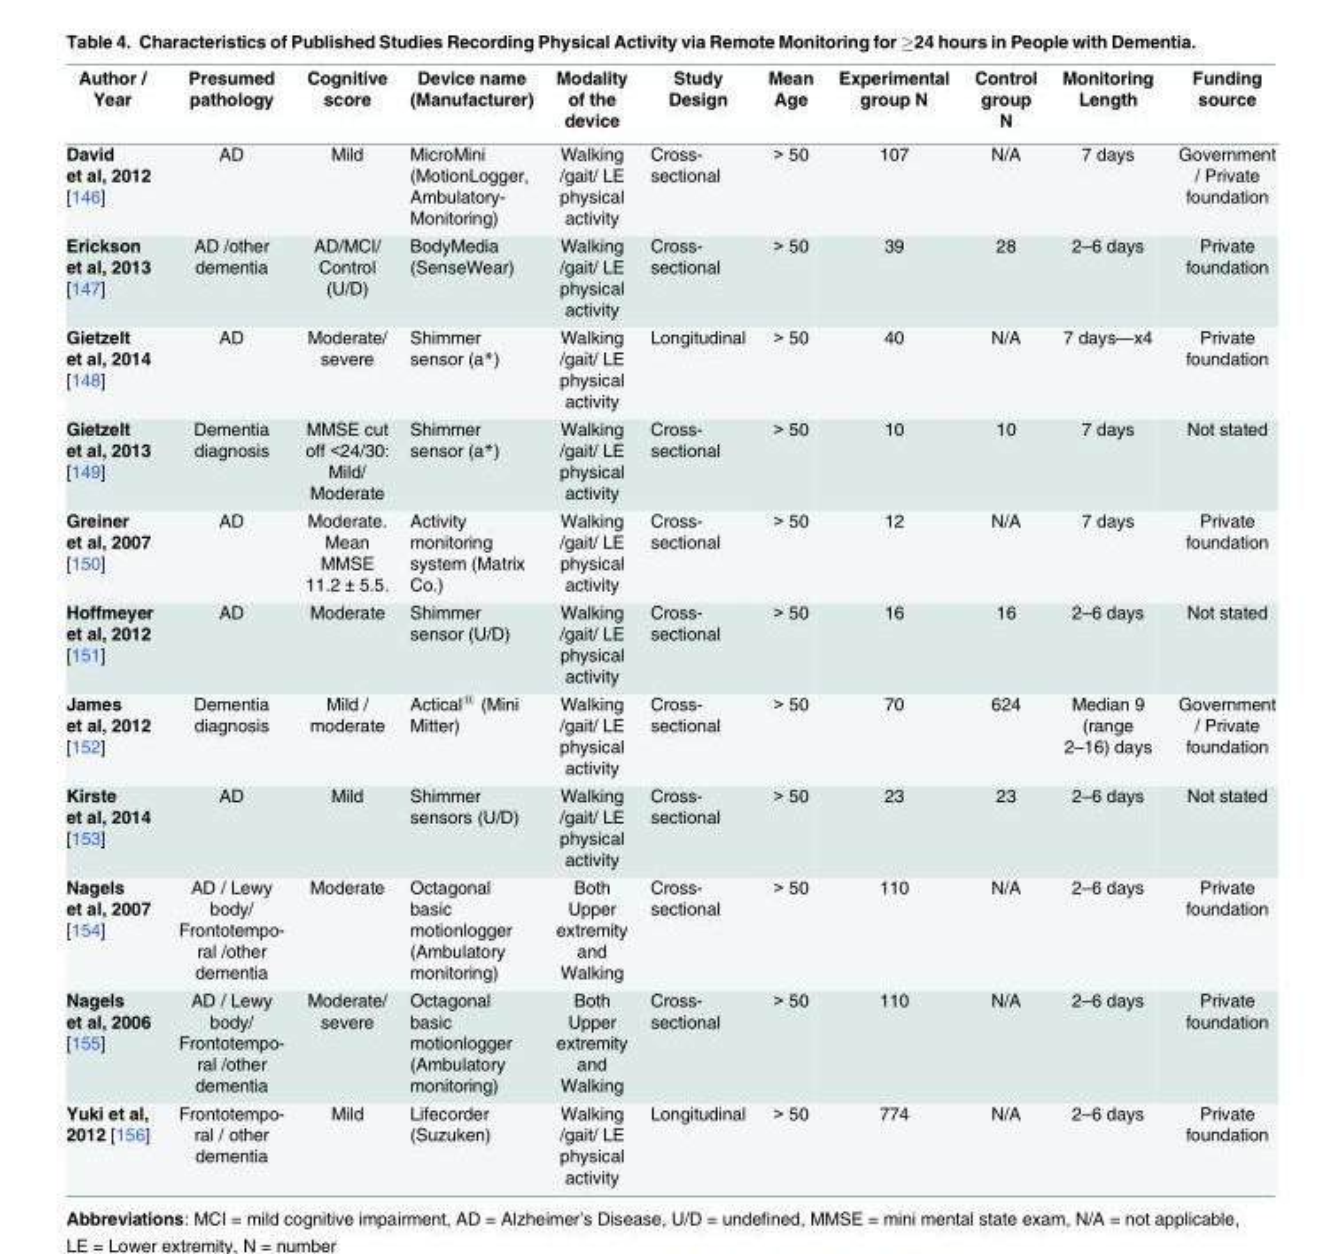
<table><thead><tr><td>Author / Year</td><td>Presumed pathology</td><td>Cognitive score</td><td>Device name (Manufacturer)</td><td>Modality of the device</td><td>Study Design</td><td>Mean Age</td><td>Experimental group N</td><td>Control group N</td><td>Monitoring Length</td><td>Funding source</td></tr></thead><tbody><tr><td>David et al, 2012 [146]</td><td>AD</td><td>Mild</td><td>MicroMini (MotionLogger, Ambulatory- Monitoring)</td><td>Walking /gait/ LE physical activity</td><td>Cross- sectional</td><td>&gt; 50</td><td>107</td><td>N/A</td><td>7 days</td><td>Government / Private foundation</td></tr><tr><td>Erickson et al, 2013 [147]</td><td>AD /other dementia</td><td>AD/MCI/ Control (U/D)</td><td>BodyMedia (SenseWear)</td><td>Walking /gait/ LE physical activity</td><td>Cross- sectional</td><td>&gt; 50</td><td>39</td><td>28</td><td>2–6 days</td><td>Private foundation</td></tr><tr><td>Gietzelt et al, 2014 [148]</td><td>AD</td><td>Moderate/ severe</td><td>Shimmer sensor (a*)</td><td>Walking /gait/ LE physical activity</td><td>Longitudinal</td><td>&gt; 50</td><td>40</td><td>N/A</td><td>7 days—x4</td><td>Private foundation</td></tr><tr><td>Gietzelt et al, 2013 [149]</td><td>Dementia diagnosis</td><td>MMSE cut off &lt;24/30: Mild/ Moderate</td><td>Shimmer sensor (a*)</td><td>Walking /gait/ LE physical activity</td><td>Cross- sectional</td><td>&gt; 50</td><td>10</td><td>10</td><td>7 days</td><td>Not stated</td></tr><tr><td>Greiner et al, 2007 [150]</td><td>AD</td><td>Moderate. Mean MMSE 11.2 ± 5.5.</td><td>Activity monitoring system (Matrix Co.)</td><td>Walking /gait/ LE physical activity</td><td>Cross- sectional</td><td>&gt; 50</td><td>12</td><td>N/A</td><td>7 days</td><td>Private foundation</td></tr><tr><td>Hoffmeyer et al, 2012 [151]</td><td>AD</td><td>Moderate</td><td>Shimmer sensor (U/D)</td><td>Walking /gait/ LE physical activity</td><td>Cross- sectional</td><td>&gt; 50</td><td>16</td><td>16</td><td>2–6 days</td><td>Not stated</td></tr><tr><td>James et al, 2012 [152]</td><td>Dementia diagnosis</td><td>Mild / moderate</td><td>Actical<sup>®</sup> (Mini Mitter)</td><td>Walking /gait/ LE physical activity</td><td>Cross- sectional</td><td>&gt; 50</td><td>70</td><td>624</td><td>Median 9 (range 2–16) days</td><td>Government / Private foundation</td></tr><tr><td>Kirste et al, 2014 [153]</td><td>AD</td><td>Mild</td><td>Shimmer sensors (U/D)</td><td>Walking /gait/ LE physical activity</td><td>Cross- sectional</td><td>&gt; 50</td><td>23</td><td>23</td><td>2–6 days</td><td>Not stated</td></tr><tr><td>Nagels et al, 2007 [154]</td><td>AD / Lewy body/ Frontotempo- ral /other dementia</td><td>Moderate</td><td>Octagonal basic motionlogger (Ambulatory monitoring)</td><td>Both Upper extremity and Walking</td><td>Cross- sectional</td><td>&gt; 50</td><td>110</td><td>N/A</td><td>2–6 days</td><td>Private foundation</td></tr><tr><td>Nagels et al, 2006 [155]</td><td>AD / Lewy body/ Frontotempo- ral /other dementia</td><td>Moderate/ severe</td><td>Octagonal basic motionlogger (Ambulatory monitoring)</td><td>Both Upper extremity and Walking</td><td>Cross- sectional</td><td>&gt; 50</td><td>110</td><td>N/A</td><td>2–6 days</td><td>Private foundation</td></tr><tr><td>Yuki et al, 2012 [156]</td><td>Frontotempo- ral / other dementia</td><td>Mild</td><td>Lifecorder (Suzuken)</td><td>Walking /gait/ LE physical activity</td><td>Longitudinal</td><td>&gt; 50</td><td>774</td><td>N/A</td><td>2–6 days</td><td>Private foundation</td></tr></tbody></table>